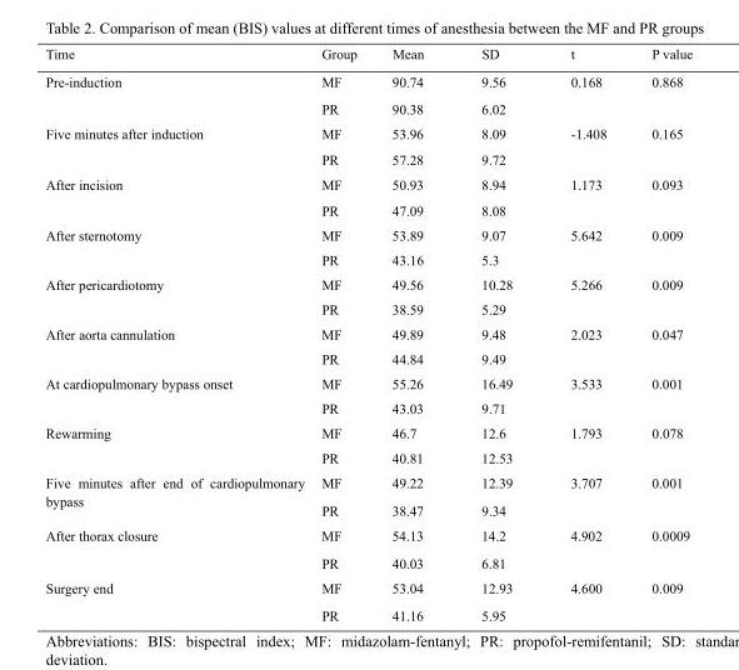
<table><thead><tr><td>Time</td><td>Group</td><td>Mean</td><td>SD</td><td>t</td><td>P value</td></tr></thead><tbody><tr><td rowspan="2">Pre-induction</td><td>MF</td><td>90.74</td><td>9.56</td><td rowspan="2">0.168</td><td rowspan="2">0.868</td></tr><tr><td>PR</td><td>90.38</td><td>6.02</td></tr><tr><td rowspan="2">Five minutes after induction</td><td>MF</td><td>53.96</td><td>8.09</td><td rowspan="2">-1.408</td><td rowspan="2">0.165</td></tr><tr><td>PR</td><td>57.28</td><td>9.72</td></tr><tr><td rowspan="2">After incision</td><td>MF</td><td>50.93</td><td>8.94</td><td rowspan="2">1.173</td><td rowspan="2">0.093</td></tr><tr><td>PR</td><td>47.09</td><td>8.08</td></tr><tr><td rowspan="2">After sternotomy</td><td>MF</td><td>53.89</td><td>9.07</td><td rowspan="2">5.642</td><td rowspan="2">0.009</td></tr><tr><td>PR</td><td>43.16</td><td>5.3</td></tr><tr><td rowspan="2">After pericardiotomy</td><td>MF</td><td>49.56</td><td>10.28</td><td rowspan="2">5.266</td><td rowspan="2">0.009</td></tr><tr><td>PR</td><td>38.59</td><td>5.29</td></tr><tr><td rowspan="2">After aorta cannulation</td><td>MF</td><td>49.89</td><td>9.48</td><td rowspan="2">2.023</td><td rowspan="2">0.047</td></tr><tr><td>PR</td><td>44.84</td><td>9.49</td></tr><tr><td rowspan="2">At cardiopulmonary bypass onset</td><td>MF</td><td>55.26</td><td>16.49</td><td rowspan="2">3.533</td><td rowspan="2">0.001</td></tr><tr><td>PR</td><td>43.03</td><td>9.71</td></tr><tr><td rowspan="2">Rewarming</td><td>MF</td><td>46.7</td><td>12.6</td><td rowspan="2">1.793</td><td rowspan="2">0.078</td></tr><tr><td>PR</td><td>40.81</td><td>12.53</td></tr><tr><td rowspan="2">Five minutes after end of cardiopulmonary bypass</td><td>MF</td><td>49.22</td><td>12.39</td><td rowspan="2">3.707</td><td rowspan="2">0.001</td></tr><tr><td>PR</td><td>38.47</td><td>9.34</td></tr><tr><td rowspan="2">After thorax closure</td><td>MF</td><td>54.13</td><td>14.2</td><td rowspan="2">4.902</td><td rowspan="2">0.0009</td></tr><tr><td>PR</td><td>40.03</td><td>6.81</td></tr><tr><td rowspan="2">Surgery end</td><td>MF</td><td>53.04</td><td>12.93</td><td rowspan="2">4.600</td><td rowspan="2">0.009</td></tr><tr><td>PR</td><td>41.16</td><td>5.95</td></tr></tbody></table>